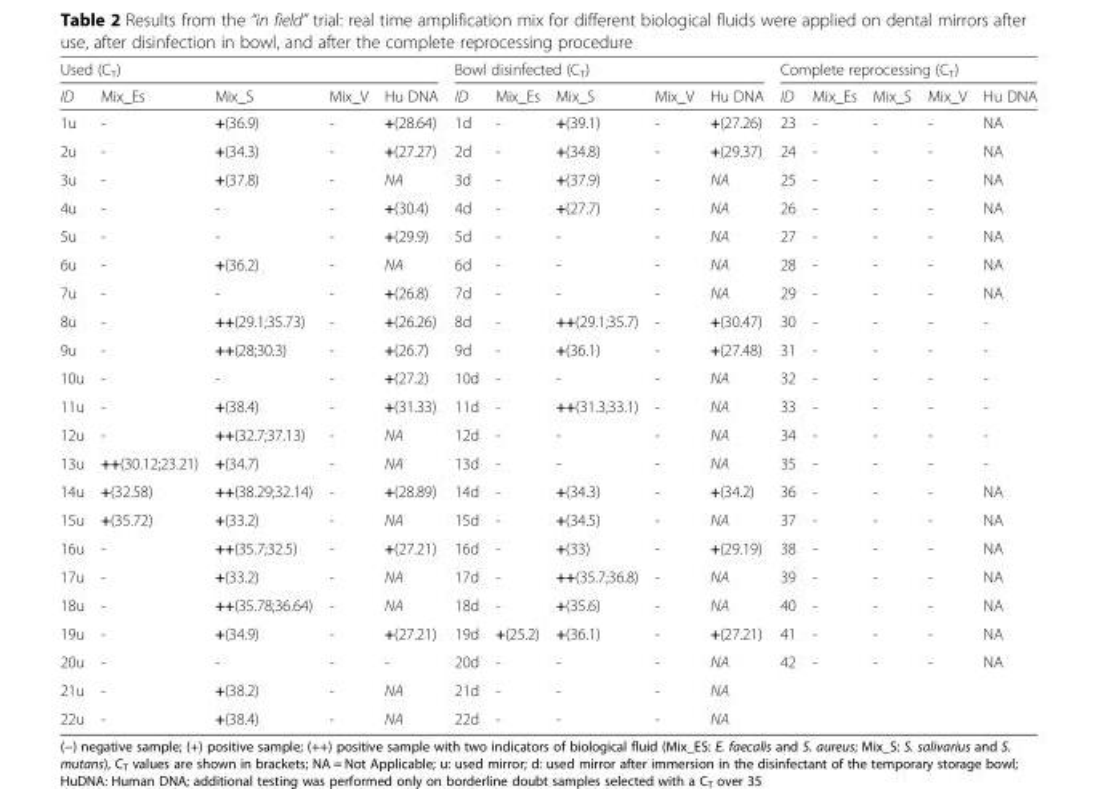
<table><thead><tr><td colspan="5">Used (C<sub>T</sub>)</td><td colspan="5">Bowl disinfected (C<sub>T</sub>)</td><td colspan="5">Complete reprocessing (C<sub>T</sub>)</td></tr><tr><td>ID</td><td>Mix_Es</td><td>Mix_S</td><td>Mix_V</td><td>Hu DNA</td><td>ID</td><td>Mix_Es</td><td>Mix_S</td><td>Mix_V</td><td>Hu DNA</td><td>ID</td><td>Mix_Es</td><td>Mix_S</td><td>Mix_V</td><td>Hu DNA</td></tr></thead><tbody><tr><td>1u</td><td>-</td><td>+(36.9)</td><td>-</td><td>+(28.64)</td><td>1d</td><td>-</td><td>+(39.1)</td><td>-</td><td>+(27.26)</td><td>23</td><td>-</td><td>-</td><td>-</td><td>NA</td></tr><tr><td>2u</td><td>-</td><td>+(34.3)</td><td>-</td><td>+(27.27)</td><td>2d</td><td>-</td><td>+(34.8)</td><td>-</td><td>+(29.37)</td><td>24</td><td>-</td><td>-</td><td>-</td><td>NA</td></tr><tr><td>3u</td><td>-</td><td>+(37.8)</td><td>-</td><td>NA</td><td>3d</td><td>-</td><td>+(37.9)</td><td>-</td><td>NA</td><td>25</td><td>-</td><td>-</td><td>-</td><td>NA</td></tr><tr><td>4u</td><td>-</td><td>-</td><td>-</td><td>+(30.4)</td><td>4d</td><td>-</td><td>+(27.7)</td><td>-</td><td>NA</td><td>26</td><td>-</td><td>-</td><td>-</td><td>NA</td></tr><tr><td>5u</td><td>-</td><td>-</td><td>-</td><td>+(29.9)</td><td>5d</td><td>-</td><td>-</td><td>-</td><td>NA</td><td>27</td><td>-</td><td>-</td><td>-</td><td>NA</td></tr><tr><td>6u</td><td>-</td><td>+(36.2)</td><td>-</td><td>NA</td><td>6d</td><td>-</td><td>-</td><td>-</td><td>NA</td><td>28</td><td>-</td><td>-</td><td>-</td><td>NA</td></tr><tr><td>7u</td><td>-</td><td>-</td><td>-</td><td>+(26.8)</td><td>7d</td><td>-</td><td>-</td><td>-</td><td>NA</td><td>29</td><td>-</td><td>-</td><td>-</td><td>NA</td></tr><tr><td>8u</td><td>-</td><td>++(29.1;35.73)</td><td>-</td><td>+(26.26)</td><td>8d</td><td>-</td><td>++(29.1;35.7)</td><td>-</td><td>+(30.47)</td><td>30</td><td>-</td><td>-</td><td>-</td><td>-</td></tr><tr><td>9u</td><td>-</td><td>++(28;30.3)</td><td>-</td><td>+(26.7)</td><td>9d</td><td>-</td><td>+(36.1)</td><td>-</td><td>+(27.48)</td><td>31</td><td>-</td><td>-</td><td>-</td><td>-</td></tr><tr><td>10u</td><td>-</td><td>-</td><td>-</td><td>+(27.2)</td><td>10d</td><td>-</td><td>-</td><td>-</td><td>NA</td><td>32</td><td>-</td><td>-</td><td>-</td><td>-</td></tr><tr><td>11u</td><td>-</td><td>+(38.4)</td><td>-</td><td>+(31.33)</td><td>11d</td><td>-</td><td>++(31.3;33.1)</td><td>-</td><td>NA</td><td>33</td><td>-</td><td>-</td><td>-</td><td>-</td></tr><tr><td>12u</td><td>-</td><td>++(32.7;37.13)</td><td>-</td><td>NA</td><td>12d</td><td>-</td><td>-</td><td>-</td><td>NA</td><td>34</td><td>-</td><td>-</td><td>-</td><td>-</td></tr><tr><td>13u</td><td>++(30.12;23.21)</td><td>+(34.7)</td><td>-</td><td>NA</td><td>13d</td><td>-</td><td>-</td><td>-</td><td>NA</td><td>35</td><td>-</td><td>-</td><td>-</td><td>-</td></tr><tr><td>14u</td><td>+(32.58)</td><td>++(38.29;32.14)</td><td>-</td><td>+(28.89)</td><td>14d</td><td>-</td><td>+(34.3)</td><td>-</td><td>+(34.2)</td><td>36</td><td>-</td><td>-</td><td>-</td><td>NA</td></tr><tr><td>15u</td><td>+(35.72)</td><td>+(33.2)</td><td>-</td><td>NA</td><td>15d</td><td>-</td><td>+(34.5)</td><td>-</td><td>NA</td><td>37</td><td>-</td><td>-</td><td>-</td><td>NA</td></tr><tr><td>16u</td><td>-</td><td>++(35.7;32.5)</td><td>-</td><td>+(27.21)</td><td>16d</td><td>-</td><td>+(33)</td><td>-</td><td>+(29.19)</td><td>38</td><td>-</td><td>-</td><td>-</td><td>NA</td></tr><tr><td>17u</td><td>-</td><td>+(33.2)</td><td>-</td><td>NA</td><td>17d</td><td>-</td><td>++(35.7;36.8)</td><td>-</td><td>NA</td><td>39</td><td>-</td><td>-</td><td>-</td><td>NA</td></tr><tr><td>18u</td><td>-</td><td>++(35.78;36.64)</td><td>-</td><td>NA</td><td>18d</td><td>-</td><td>+(35.6)</td><td>-</td><td>NA</td><td>40</td><td>-</td><td>-</td><td>-</td><td>NA</td></tr><tr><td>19u</td><td>-</td><td>+(34.9)</td><td>-</td><td>+(27.21)</td><td>19d</td><td>+(25.2)</td><td>+(36.1)</td><td>-</td><td>+(27.21)</td><td>41</td><td>-</td><td>-</td><td>-</td><td>NA</td></tr><tr><td>20u</td><td>-</td><td>-</td><td>-</td><td>-</td><td>20d</td><td>-</td><td>-</td><td>-</td><td>NA</td><td>42</td><td>-</td><td>-</td><td>-</td><td>NA</td></tr><tr><td>21u</td><td>-</td><td>+(38.2)</td><td>-</td><td>NA</td><td>21d</td><td>-</td><td>-</td><td>-</td><td>NA</td><td></td><td></td><td></td><td></td><td></td></tr><tr><td>22u</td><td>-</td><td>+(38.4)</td><td>-</td><td>NA</td><td>22d</td><td>-</td><td>-</td><td>-</td><td>NA</td><td></td><td></td><td></td><td></td><td></td></tr></tbody></table>